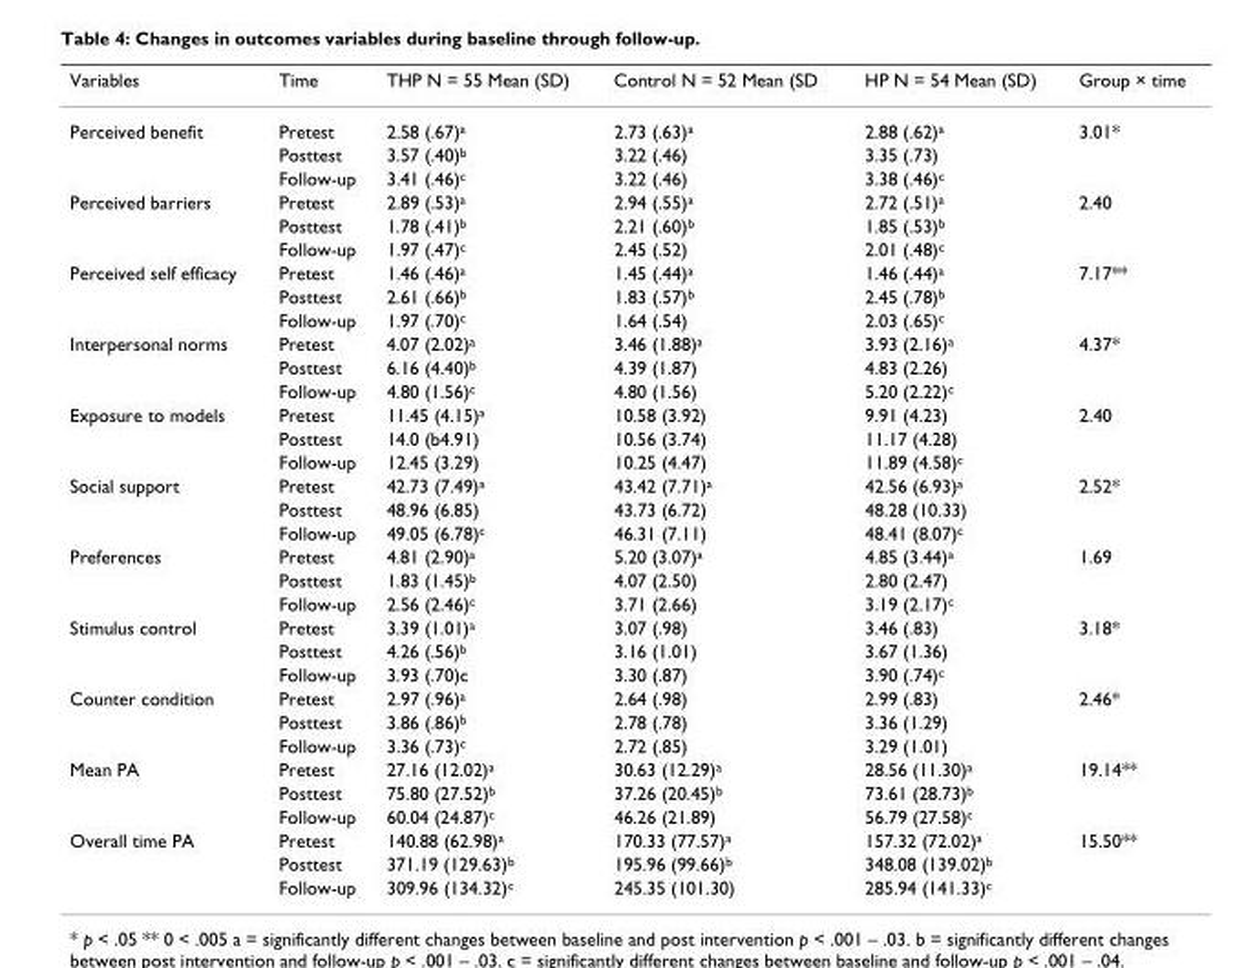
<table><thead><tr><td>Variables</td><td>Time</td><td>THP N = 55 Mean (SD)</td><td>Control N = 52 Mean (SD</td><td>HP N = 54 Mean (SD)</td><td>Group × time</td></tr></thead><tbody><tr><td rowspan="3">Perceived benefit</td><td>Pretest</td><td>2.58 (.67)<sup>a</sup></td><td>2.73 (.63)<sup>a</sup></td><td>2.88 (.62)<sup>a</sup></td><td>3.01*</td></tr><tr><td>Posttest</td><td>3.57 (.40)<sup>b</sup></td><td>3.22 (.46)</td><td>3.35 (.73)</td><td></td></tr><tr><td>Follow-up</td><td>3.41 (.46)<sup>c</sup></td><td>3.22 (.46)</td><td>3.38 (.46)<sup>c</sup></td><td></td></tr><tr><td rowspan="3">Perceived barriers</td><td>Pretest</td><td>2.89 (.53)<sup>a</sup></td><td>2.94 (.55)<sup>a</sup></td><td>2.72 (.51)<sup>a</sup></td><td>2.40</td></tr><tr><td>Posttest</td><td>1.78 (.41)<sup>b</sup></td><td>2.21 (.60)<sup>b</sup></td><td>1.85 (.53)<sup>b</sup></td><td></td></tr><tr><td>Follow-up</td><td>1.97 (.47)<sup>c</sup></td><td>2.45 (.52)</td><td>2.01 (.48)<sup>c</sup></td><td></td></tr><tr><td rowspan="3">Perceived self efficacy</td><td>Pretest</td><td>1.46 (.46)<sup>a</sup></td><td>1.45 (.44)<sup>a</sup></td><td>1.46 (.44)<sup>a</sup></td><td>7.17**</td></tr><tr><td>Posttest</td><td>2.61 (.66)<sup>b</sup></td><td>1.83 (.57)<sup>b</sup></td><td>2.45 (.78)<sup>b</sup></td><td></td></tr><tr><td>Follow-up</td><td>1.97 (.70)<sup>c</sup></td><td>1.64 (.54)</td><td>2.03 (.65)<sup>c</sup></td><td></td></tr><tr><td rowspan="3">Interpersonal norms</td><td>Pretest</td><td>4.07 (2.02)<sup>a</sup></td><td>3.46 (1.88)<sup>a</sup></td><td>3.93 (2.16)<sup>a</sup></td><td>4.37*</td></tr><tr><td>Posttest</td><td>6.16 (4.40)<sup>b</sup></td><td>4.39 (1.87)</td><td>4.83 (2.26)</td><td></td></tr><tr><td>Follow-up</td><td>4.80 (1.56)<sup>c</sup></td><td>4.80 (1.56)</td><td>5.20 (2.22)<sup>c</sup></td><td></td></tr><tr><td rowspan="3">Exposure to models</td><td>Pretest</td><td>11.45 (4.15)<sup>a</sup></td><td>10.58 (3.92)</td><td>9.91 (4.23)</td><td>2.40</td></tr><tr><td>Posttest</td><td>14.0 (b4.91)</td><td>10.56 (3.74)</td><td>11.17 (4.28)</td><td></td></tr><tr><td>Follow-up</td><td>12.45 (3.29)</td><td>10.25 (4.47)</td><td>11.89 (4.58)<sup>c</sup></td><td></td></tr><tr><td rowspan="3">Social support</td><td>Pretest</td><td>42.73 (7.49)<sup>a</sup></td><td>43.42 (7.71)<sup>a</sup></td><td>42.56 (6.93)<sup>a</sup></td><td>2.52*</td></tr><tr><td>Posttest</td><td>48.96 (6.85)</td><td>43.73 (6.72)</td><td>48.28 (10.33)</td><td></td></tr><tr><td>Follow-up</td><td>49.05 (6.78)<sup>c</sup></td><td>46.31 (7.11)</td><td>48.41 (8.07)<sup>c</sup></td><td></td></tr><tr><td rowspan="3">Preferences</td><td>Pretest</td><td>4.81 (2.90)<sup>a</sup></td><td>5.20 (3.07)<sup>a</sup></td><td>4.85 (3.44)<sup>a</sup></td><td>1.69</td></tr><tr><td>Posttest</td><td>1.83 (1.45)<sup>b</sup></td><td>4.07 (2.50)</td><td>2.80 (2.47)</td><td></td></tr><tr><td>Follow-up</td><td>2.56 (2.46)<sup>c</sup></td><td>3.71 (2.66)</td><td>3.19 (2.17)<sup>c</sup></td><td></td></tr><tr><td rowspan="3">Stimulus control</td><td>Pretest</td><td>3.39 (1.01)<sup>a</sup></td><td>3.07 (.98)</td><td>3.46 (.83)</td><td>3.18*</td></tr><tr><td>Posttest</td><td>4.26 (.56)<sup>b</sup></td><td>3.16 (1.01)</td><td>3.67 (1.36)</td><td></td></tr><tr><td>Follow-up</td><td>3.93 (.70)c</td><td>3.30 (.87)</td><td>3.90 (.74)<sup>c</sup></td><td></td></tr><tr><td rowspan="3">Counter condition</td><td>Pretest</td><td>2.97 (.96)<sup>a</sup></td><td>2.64 (.98)</td><td>2.99 (.83)</td><td>2.46*</td></tr><tr><td>Posttest</td><td>3.86 (.86)<sup>b</sup></td><td>2.78 (.78)</td><td>3.36 (1.29)</td><td></td></tr><tr><td>Follow-up</td><td>3.36 (.73)<sup>c</sup></td><td>2.72 (.85)</td><td>3.29 (1.01)</td><td></td></tr><tr><td rowspan="3">Mean PA</td><td>Pretest</td><td>27.16 (12.02)<sup>a</sup></td><td>30.63 (12.29)<sup>a</sup></td><td>28.56 (11.30)<sup>a</sup></td><td>19.14**</td></tr><tr><td>Posttest</td><td>75.80 (27.52)<sup>b</sup></td><td>37.26 (20.45)<sup>b</sup></td><td>73.61 (28.73)<sup>b</sup></td><td></td></tr><tr><td>Follow-up</td><td>60.04 (24.87)<sup>c</sup></td><td>46.26 (21.89)</td><td>56.79 (27.58)<sup>c</sup></td><td></td></tr><tr><td rowspan="3">Overall time PA</td><td>Pretest</td><td>140.88 (62.98)<sup>a</sup></td><td>170.33 (77.57)<sup>a</sup></td><td>157.32 (72.02)<sup>a</sup></td><td>15.50**</td></tr><tr><td>Posttest</td><td>371.19 (129.63)<sup>b</sup></td><td>195.96 (99.66)<sup>b</sup></td><td>348.08 (139.02)<sup>b</sup></td><td></td></tr><tr><td>Follow-up</td><td>309.96 (134.32)<sup>c</sup></td><td>245.35 (101.30)</td><td>285.94 (141.33)<sup>c</sup></td><td></td></tr></tbody></table>